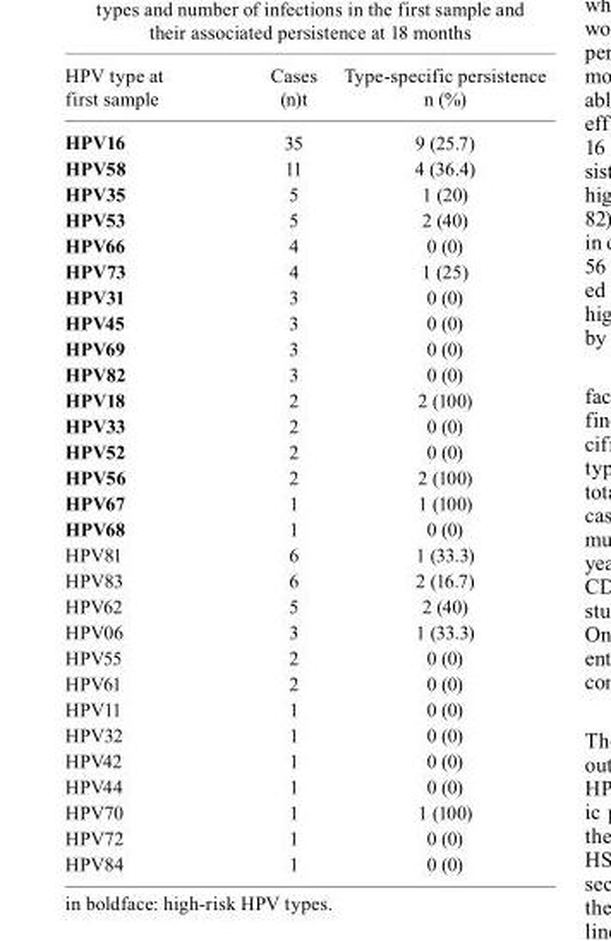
<table><thead><tr><td>HPV type at first sample</td><td>Cases (n)t</td><td>Type-specific persistence n (%)</td></tr></thead><tbody><tr><td>HPV16</td><td>35</td><td>9 (25.7)</td></tr><tr><td>HPV58</td><td>11</td><td>4 (36.4)</td></tr><tr><td>HPV35</td><td>5</td><td>1 (20)</td></tr><tr><td>HPV53</td><td>5</td><td>2 (40)</td></tr><tr><td>HPV66</td><td>4</td><td>0 (0)</td></tr><tr><td>HPV73</td><td>4</td><td>1 (25)</td></tr><tr><td>HPV31</td><td>3</td><td>0 (0)</td></tr><tr><td>HPV45</td><td>3</td><td>0 (0)</td></tr><tr><td>HPV69</td><td>3</td><td>0 (0)</td></tr><tr><td>HPV82</td><td>3</td><td>0 (0)</td></tr><tr><td>HPV18</td><td>2</td><td>2 (100)</td></tr><tr><td>HPV33</td><td>2</td><td>0 (0)</td></tr><tr><td>HPV52</td><td>2</td><td>0 (0)</td></tr><tr><td>HPV56</td><td>2</td><td>2 (100)</td></tr><tr><td>HPV67</td><td>1</td><td>1 (100)</td></tr><tr><td>HPV68</td><td>1</td><td>0 (0)</td></tr><tr><td>HPV81</td><td>6</td><td>1 (33.3)</td></tr><tr><td>HPV83</td><td>6</td><td>2 (16.7)</td></tr><tr><td>HPV62</td><td>5</td><td>2 (40)</td></tr><tr><td>HPV06</td><td>3</td><td>1 (33.3)</td></tr><tr><td>HPV55</td><td>2</td><td>0 (0)</td></tr><tr><td>HPV61</td><td>2</td><td>0 (0)</td></tr><tr><td>HPV11</td><td>1</td><td>0 (0)</td></tr><tr><td>HPV32</td><td>1</td><td>0 (0)</td></tr><tr><td>HPV42</td><td>1</td><td>0 (0)</td></tr><tr><td>HPV44</td><td>1</td><td>0 (0)</td></tr><tr><td>HPV70</td><td>1</td><td>1 (100)</td></tr><tr><td>HPV72</td><td>1</td><td>0 (0)</td></tr><tr><td>HPV84</td><td>1</td><td>0 (0)</td></tr></tbody></table>